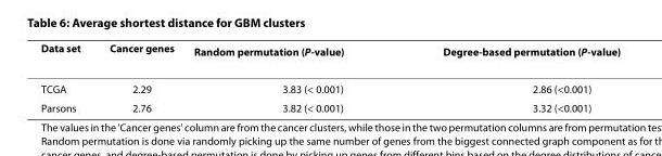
<table><thead><tr><td>Data set</td><td>Cancer genes</td><td>Random permutation (P-value)</td><td>Degree-based permutation (P-value)</td></tr></thead><tbody><tr><td>TCGA</td><td>2.29</td><td>3.83 (&lt; 0.001)</td><td>2.86 (&lt;0.001)</td></tr><tr><td>Parsons</td><td>2.76</td><td>3.82 (&lt; 0.001)</td><td>3.32 (&lt;0.001)</td></tr></tbody></table>